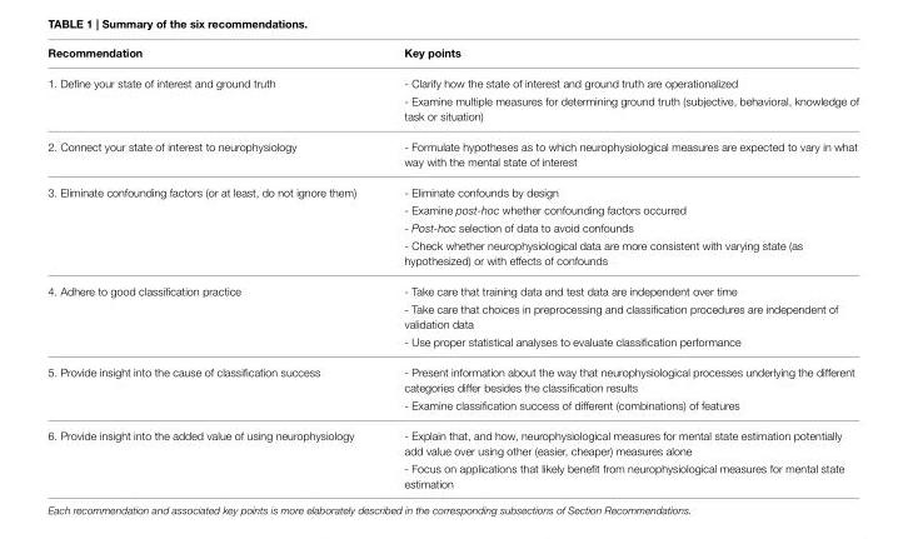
<table><thead><tr><td>Recommendation</td><td>Key points</td></tr></thead><tbody><tr><td rowspan="2">1. Define your state of interest and ground truth</td><td>- Clarify how the state of interest and ground truth are operationalized</td></tr><tr><td>- Examine multiple measures for determining ground truth (subjective, behavioral, knowledge of task or situation)</td></tr><tr><td>2. Connect your state of interest to neurophysiology</td><td>- Formulate hypotheses as to which neurophysiological measures are expected to vary in what way with the mental state of interest</td></tr><tr><td rowspan="4">3. Eliminate confounding factors (or at least, do not ignore them)</td><td>- Eliminate confounds by design</td></tr><tr><td>- Examine post-hoc whether confounding factors occurred</td></tr><tr><td>- Post-hoc selection of data to avoid confounds</td></tr><tr><td>- Check whether neurophysiological data are more consistent with varying state (as hypothesized) or with effects of confounds</td></tr><tr><td rowspan="3">4. Adhere to good classification practice</td><td>- Take care that training data and test data are independent over time</td></tr><tr><td>- Take care that choices in preprocessing and classification procedures are independent of validation data</td></tr><tr><td>- Use proper statistical analyses to evaluate classification performance</td></tr><tr><td rowspan="2">5. Provide insight into the cause of classification success</td><td>- Present information about the way that neurophysiological processes underlying the different categories differ besides the classification results</td></tr><tr><td>- Examine classification success of different (combinations) of features</td></tr><tr><td rowspan="2">6. Provide insight into the added value of using neurophysiology</td><td>- Explain that, and how, neurophysiological measures for mental state estimation potentially add value over using other (easier, cheaper) measures alone</td></tr><tr><td>- Focus on applications that likely benefit from neurophysiological measures for mental state estimation</td></tr></tbody></table>